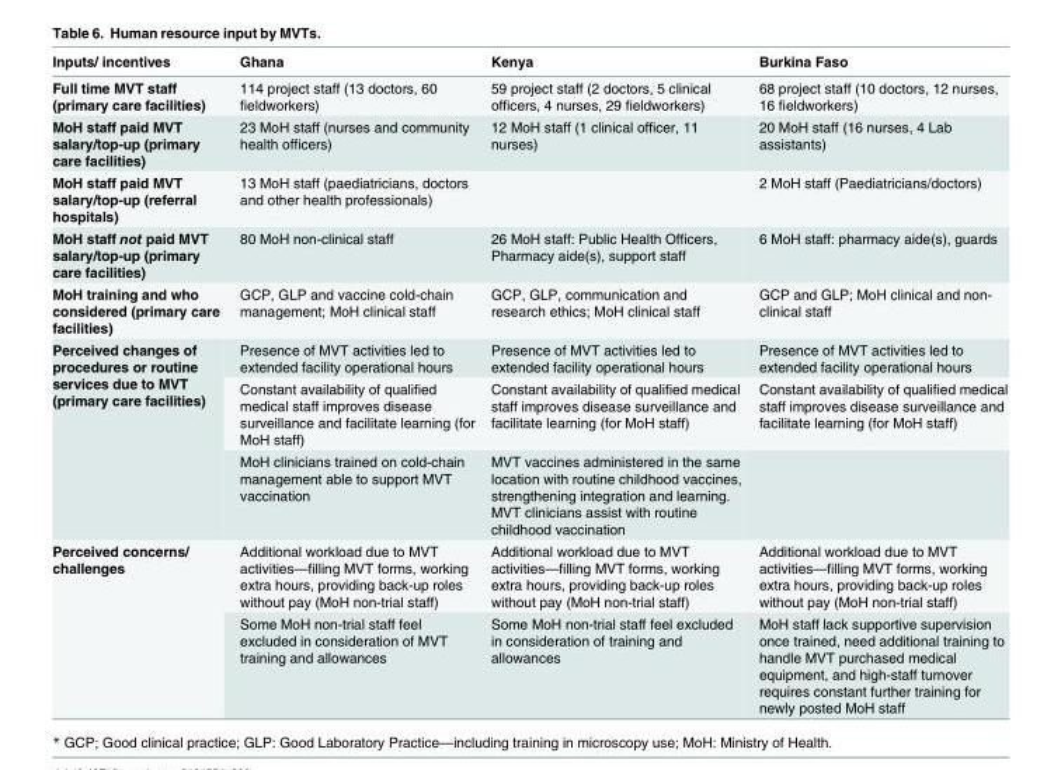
<table><thead><tr><td>Inputs/ incentives</td><td>Ghana</td><td>Kenya</td><td>Burkina Faso</td></tr></thead><tbody><tr><td>Full time MVT staff (primary care facilities)</td><td>114 project staff (13 doctors, 60 fieldworkers)</td><td>59 project staff (2 doctors, 5 clinical officers, 4 nurses, 29 fieldworkers)</td><td>68 project staff (10 doctors, 12 nurses, 16 fieldworkers)</td></tr><tr><td>MoH staff paid MVT salary/top-up (primary care facilities)</td><td>23 MoH staff (nurses and community health officers)</td><td>12 MoH staff (1 clinical officer, 11 nurses)</td><td>20 MoH staff (16 nurses, 4 Lab assistants)</td></tr><tr><td>MoH staff paid MVT salary/top-up (referral hospitals)</td><td>13 MoH staff (paediatricians, doctors and other health professionals)</td><td></td><td>2 MoH staff (Paediatricians/doctors)</td></tr><tr><td>MoH staff not paid MVT salary/top-up (primary care facilities)</td><td>80 MoH non-clinical staff</td><td>26 MoH staff: Public Health Officers, Pharmacy aide(s), support staff</td><td>6 MoH staff: pharmacy aide(s), guards</td></tr><tr><td>MoH training and who considered (primary care facilities)</td><td>GCP, GLP and vaccine cold-chain management; MoH clinical staff</td><td>GCP, GLP, communication and research ethics; MoH clinical staff</td><td>GCP and GLP; MoH clinical and non- clinical staff</td></tr><tr><td rowspan="3">Perceived changes of procedures or routine services due to MVT (primary care facilities)</td><td>Presence of MVT activities led to extended facility operational hours</td><td>Presence of MVT activities led to extended facility operational hours</td><td>Presence of MVT activities led to extended facility operational hours</td></tr><tr><td>Constant availability of qualified medical staff improves disease surveillance and facilitate learning (for MoH staff)</td><td>Constant availability of qualified medical staff improves disease surveillance and facilitate learning (for MoH staff)</td><td>Constant availability of qualified medical staff improves disease surveillance and facilitate learning (for MoH staff)</td></tr><tr><td>MoH clinicians trained on cold-chain management able to support MVT vaccination</td><td>MVT vaccines administered in the same location with routine childhood vaccines, strengthening integration and learning. MVT clinicians assist with routine childhood vaccination</td><td></td></tr><tr><td rowspan="2">Perceived concerns/ challenges</td><td>Additional workload due to MVT activities—filling MVT forms, working extra hours, providing back-up roles without pay (MoH non-trial staff)</td><td>Additional workload due to MVT activities—filling MVT forms, working extra hours, providing back-up roles without pay (MoH non-trial staff)</td><td>Additional workload due to MVT activities—filling MVT forms, working extra hours, providing back-up roles without pay (MoH non-trial staff)</td></tr><tr><td>Some MoH non-trial staff feel excluded in consideration of MVT training and allowances</td><td>Some MoH non-trial staff feel excluded in consideration of training and allowances</td><td>MoH staff lack supportive supervision once trained, need additional training to handle MVT purchased medical equipment, and high-staff turnover requires constant further training for newly posted MoH staff</td></tr></tbody></table>